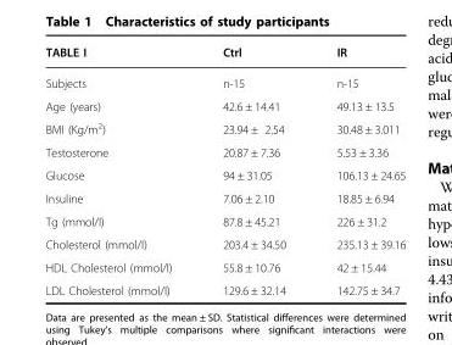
<table><thead><tr><td>TABLE I</td><td>Ctrl</td><td>IR</td></tr></thead><tbody><tr><td>Subjects</td><td>n-15</td><td>n-15</td></tr><tr><td>Age (years)</td><td>42.6 ± 14.41</td><td>49.13 ± 13.5</td></tr><tr><td>BMI (Kg/m<sup>2</sup>)</td><td>23.94 ± 2.54</td><td>30.48 ± 3.011</td></tr><tr><td>Testosterone</td><td>20.87 ± 7.36</td><td>5.53 ± 3.36</td></tr><tr><td>Glucose</td><td>94 ± 31.05</td><td>106.13 ± 24.65</td></tr><tr><td>Insuline</td><td>7.06 ± 2.10</td><td>18.85 ± 6.94</td></tr><tr><td>Tg (mmol/l)</td><td>87.8 ± 45.21</td><td>226 ± 31.2</td></tr><tr><td>Cholesterol (mmol/l)</td><td>203.4 ± 34.50</td><td>235.13 ± 39.16</td></tr><tr><td>HDL Cholesterol (mmol/l)</td><td>55.8 ± 10.76</td><td>42 ± 15.44</td></tr><tr><td>LDL Cholesterol (mmol/l)</td><td>129.6 ± 32.14</td><td>142.75 ± 34.7</td></tr></tbody></table>